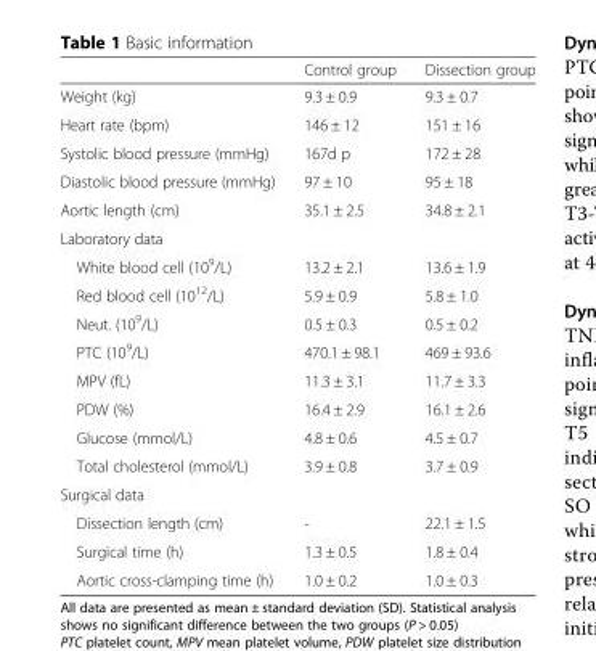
<table><thead><tr><td></td><td>Control group</td><td>Dissection group</td></tr></thead><tbody><tr><td>Weight (kg)</td><td>9.3 ± 0.9</td><td>9.3 ± 0.7</td></tr><tr><td>Heart rate (bpm)</td><td>146 ± 12</td><td>151 ± 16</td></tr><tr><td>Systolic blood pressure (mmHg)</td><td>167d p</td><td>172 ± 28</td></tr><tr><td>Diastolic blood pressure (mmHg)</td><td>97 ± 10</td><td>95 ± 18</td></tr><tr><td>Aortic length (cm)</td><td>35.1 ± 2.5</td><td>34.8 ± 2.1</td></tr><tr><td colspan="3">Laboratory data</td></tr><tr><td>White blood cell (10<sup>9</sup>/L)</td><td>13.2 ± 2.1</td><td>13.6 ± 1.9</td></tr><tr><td>Red blood cell (10<sup>12</sup>/L)</td><td>5.9 ± 0.9</td><td>5.8 ± 1.0</td></tr><tr><td>Neut. (10<sup>9</sup>/L)</td><td>0.5 ± 0.3</td><td>0.5 ± 0.2</td></tr><tr><td>PTC (10<sup>9</sup>/L)</td><td>470.1 ± 98.1</td><td>469 ± 93.6</td></tr><tr><td>MPV (fL)</td><td>11.3 ± 3.1</td><td>11.7 ± 3.3</td></tr><tr><td>PDW (%)</td><td>16.4 ± 2.9</td><td>16.1 ± 2.6</td></tr><tr><td>Glucose (mmol/L)</td><td>4.8 ± 0.6</td><td>4.5 ± 0.7</td></tr><tr><td>Total cholesterol (mmol/L)</td><td>3.9 ± 0.8</td><td>3.7 ± 0.9</td></tr><tr><td colspan="3">Surgical data</td></tr><tr><td>Dissection length (cm)</td><td>-</td><td>22.1 ± 1.5</td></tr><tr><td>Surgical time (h)</td><td>1.3 ± 0.5</td><td>1.8 ± 0.4</td></tr><tr><td>Aortic cross-clamping time (h)</td><td>1.0 ± 0.2</td><td>1.0 ± 0.3</td></tr></tbody></table>